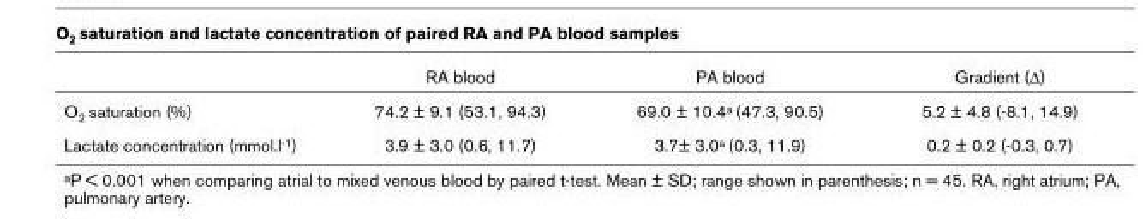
<table><thead><tr><td></td><td>RA blood</td><td>PA blood</td><td>Gradient (∆)</td></tr></thead><tbody><tr><td>O2 saturation (%)</td><td>74.2 ± 9.1 (53.1, 94.3)</td><td>69.0 ± 10.4a (47.3, 90.5)</td><td>5.2 ± 4.8 (-8.1, 14.9)</td></tr><tr><td>Lactate concentration (mmol.l-1)</td><td>3.9 ± 3.0 (0.6, 11.7)</td><td>3.7± 3.0a (0.3, 11.9)</td><td>0.2 ± 0.2 (-0.3, 0.7)</td></tr></tbody></table>